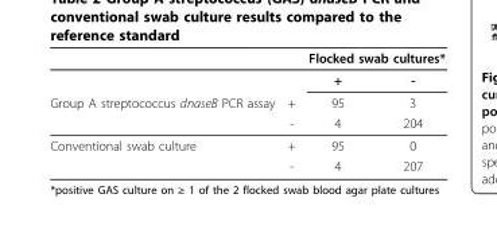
<table><thead><tr><td rowspan="2"></td><td rowspan="2"></td><td colspan="2">Flocked swab cultures*</td></tr><tr><td>+</td><td>-</td></tr></thead><tbody><tr><td rowspan="2">Group A streptococcus dnaseB PCR assay</td><td>+</td><td>95</td><td>3</td></tr><tr><td>-</td><td>4</td><td>204</td></tr><tr><td rowspan="2">Conventional swab culture</td><td>+</td><td>95</td><td>0</td></tr><tr><td>-</td><td>4</td><td>207</td></tr></tbody></table>